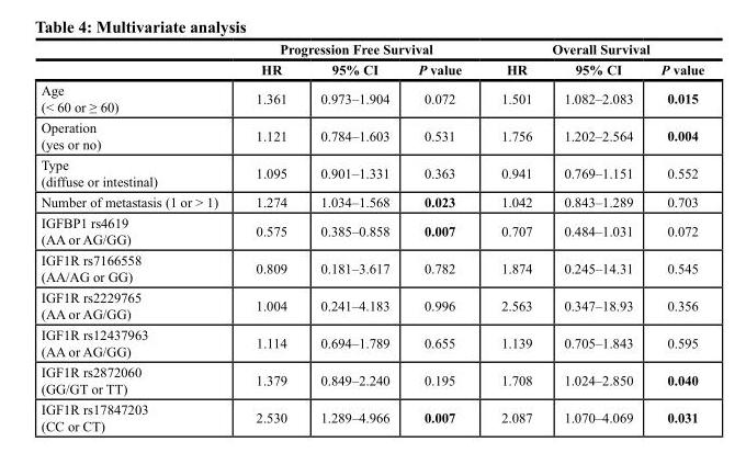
<table><thead><tr><td rowspan="2"></td><td colspan="3">Progression Free Survival</td><td colspan="3">Overall Survival</td></tr><tr><td>HR</td><td>95% CI</td><td>P value</td><td>HR</td><td>95% CI</td><td>P value</td></tr></thead><tbody><tr><td>Age (&lt; 60 or ≥ 60)</td><td>1.361</td><td>0.973–1.904</td><td>0.072</td><td>1.501</td><td>1.082–2.083</td><td>0.015</td></tr><tr><td>Operation (yes or no)</td><td>1.121</td><td>0.784–1.603</td><td>0.531</td><td>1.756</td><td>1.202–2.564</td><td>0.004</td></tr><tr><td>Type (diffuse or intestinal)</td><td>1.095</td><td>0.901–1.331</td><td>0.363</td><td>0.941</td><td>0.769–1.151</td><td>0.552</td></tr><tr><td>Number of metastasis (1 or &gt; 1)</td><td>1.274</td><td>1.034–1.568</td><td>0.023</td><td>1.042</td><td>0.843–1.289</td><td>0.703</td></tr><tr><td>IGFBP1 rs4619 (AA or AG/GG)</td><td>0.575</td><td>0.385–0.858</td><td>0.007</td><td>0.707</td><td>0.484–1.031</td><td>0.072</td></tr><tr><td>IGF1R rs7166558 (AA/AG or GG)</td><td>0.809</td><td>0.181–3.617</td><td>0.782</td><td>1.874</td><td>0.245–14.31</td><td>0.545</td></tr><tr><td>IGF1R rs2229765 (AA or AG/GG)</td><td>1.004</td><td>0.241–4.183</td><td>0.996</td><td>2.563</td><td>0.347–18.93</td><td>0.356</td></tr><tr><td>IGF1R rs12437963 (AA or AG/GG)</td><td>1.114</td><td>0.694–1.789</td><td>0.655</td><td>1.139</td><td>0.705–1.843</td><td>0.595</td></tr><tr><td>IGF1R rs2872060 (GG/GT or TT)</td><td>1.379</td><td>0.849–2.240</td><td>0.195</td><td>1.708</td><td>1.024–2.850</td><td>0.040</td></tr><tr><td>IGF1R rs17847203 (CC or CT)</td><td>2.530</td><td>1.289–4.966</td><td>0.007</td><td>2.087</td><td>1.070–4.069</td><td>0.031</td></tr></tbody></table>